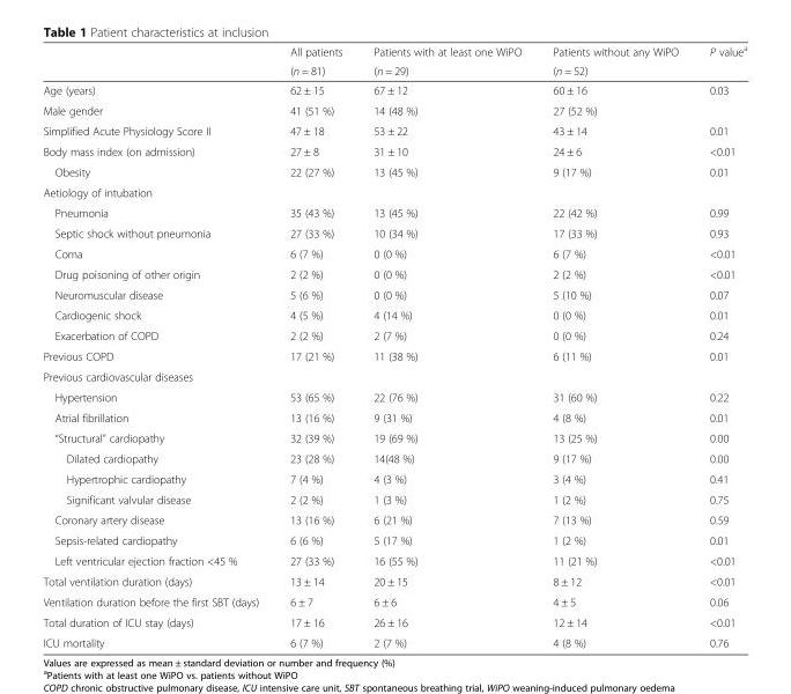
<table><thead><tr><td rowspan="2"></td><td rowspan="2">All patients (n = 81)</td><td rowspan="2">Patients with at least one WiPO (n = 29)</td><td rowspan="2">Patients without any WiPO (n = 52)</td><td rowspan="2">P value<sup>a</sup></td></tr><tr></tr></thead><tbody><tr><td>Age (years)</td><td>62 ± 15</td><td>67 ± 12</td><td>60 ± 16</td><td>0.03</td></tr><tr><td>Male gender</td><td>41 (51 %)</td><td>14 (48 %)</td><td>27 (52 %)</td><td></td></tr><tr><td>Simplified Acute Physiology Score II</td><td>47 ± 18</td><td>53 ± 22</td><td>43 ± 14</td><td>0.01</td></tr><tr><td>Body mass index (on admission)</td><td>27 ± 8</td><td>31 ± 10</td><td>24 ± 6</td><td>&lt;0.01</td></tr><tr><td>Obesity</td><td>22 (27 %)</td><td>13 (45 %)</td><td>9 (17 %)</td><td>0.01</td></tr><tr><td colspan="5">Aetiology of intubation</td></tr><tr><td>Pneumonia</td><td>35 (43 %)</td><td>13 (45 %)</td><td>22 (42 %)</td><td>0.99</td></tr><tr><td>Septic shock without pneumonia</td><td>27 (33 %)</td><td>10 (34 %)</td><td>17 (33 %)</td><td>0.93</td></tr><tr><td>Coma</td><td>6 (7 %)</td><td>0 (0 %)</td><td>6 (7 %)</td><td>&lt;0.01</td></tr><tr><td>Drug poisoning of other origin</td><td>2 (2 %)</td><td>0 (0 %)</td><td>2 (2 %)</td><td>&lt;0.01</td></tr><tr><td>Neuromuscular disease</td><td>5 (6 %)</td><td>0 (0 %)</td><td>5 (10 %)</td><td>0.07</td></tr><tr><td>Cardiogenic shock</td><td>4 (5 %)</td><td>4 (14 %)</td><td>0 (0 %)</td><td>0.01</td></tr><tr><td>Exacerbation of COPD</td><td>2 (2 %)</td><td>2 (7 %)</td><td>0 (0 %)</td><td>0.24</td></tr><tr><td>Previous COPD</td><td>17 (21 %)</td><td>11 (38 %)</td><td>6 (11 %)</td><td>0.01</td></tr><tr><td colspan="5">Previous cardiovascular diseases</td></tr><tr><td>Hypertension</td><td>53 (65 %)</td><td>22 (76 %)</td><td>31 (60 %)</td><td>0.22</td></tr><tr><td>Atrial fibrillation</td><td>13 (16 %)</td><td>9 (31 %)</td><td>4 (8 %)</td><td>0.01</td></tr><tr><td>“Structural” cardiopathy</td><td>32 (39 %)</td><td>19 (69 %)</td><td>13 (25 %)</td><td>0.00</td></tr><tr><td>Dilated cardiopathy</td><td>23 (28 %)</td><td>14(48 %)</td><td>9 (17 %)</td><td>0.00</td></tr><tr><td>Hypertrophic cardiopathy</td><td>7 (4 %)</td><td>4 (3 %)</td><td>3 (4 %)</td><td>0.41</td></tr><tr><td>Significant valvular disease</td><td>2 (2 %)</td><td>1 (3 %)</td><td>1 (2 %)</td><td>0.75</td></tr><tr><td>Coronary artery disease</td><td>13 (16 %)</td><td>6 (21 %)</td><td>7 (13 %)</td><td>0.59</td></tr><tr><td>Sepsis-related cardiopathy</td><td>6 (6 %)</td><td>5 (17 %)</td><td>1 (2 %)</td><td>0.01</td></tr><tr><td>Left ventricular ejection fraction &lt;45 %</td><td>27 (33 %)</td><td>16 (55 %)</td><td>11 (21 %)</td><td>&lt;0.01</td></tr><tr><td>Total ventilation duration (days)</td><td>13 ± 14</td><td>20 ± 15</td><td>8 ± 12</td><td>&lt;0.01</td></tr><tr><td>Ventilation duration before the first SBT (days)</td><td>6 ± 7</td><td>6 ± 6</td><td>4 ± 5</td><td>0.06</td></tr><tr><td>Total duration of ICU stay (days)</td><td>17 ± 16</td><td>26 ± 16</td><td>12 ± 14</td><td>&lt;0.01</td></tr><tr><td>ICU mortality</td><td>6 (7 %)</td><td>2 (7 %)</td><td>4 (8 %)</td><td>0.76</td></tr></tbody></table>